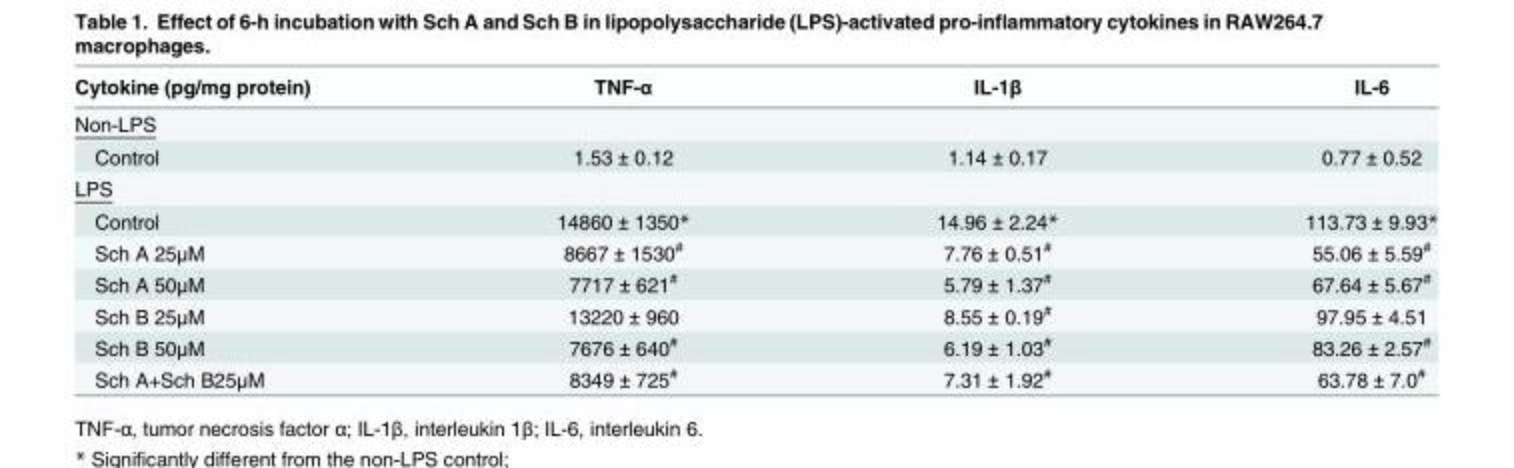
<table><thead><tr><td>Cytokine (pg/mg protein)</td><td>TNF-α</td><td>IL-1β</td><td>IL-6</td></tr></thead><tbody><tr><td colspan="4">Non-LPS</td></tr><tr><td>Control</td><td>1.53 ± 0.12</td><td>1.14 ± 0.17</td><td>0.77 ± 0.52</td></tr><tr><td colspan="4">LPS</td></tr><tr><td>Control</td><td>14860 ± 1350*</td><td>14.96 ± 2.24*</td><td>113.73 ± 9.93*</td></tr><tr><td>Sch A 25μM</td><td>8667 ± 1530<sup>#</sup></td><td>7.76 ± 0.51<sup>#</sup></td><td>55.06 ± 5.59<sup>#</sup></td></tr><tr><td>Sch A 50μM</td><td>7717 ± 621<sup>#</sup></td><td>5.79 ± 1.37<sup>#</sup></td><td>67.64 ± 5.67<sup>#</sup></td></tr><tr><td>Sch B 25μM</td><td>13220 ± 960</td><td>8.55 ± 0.19<sup>#</sup></td><td>97.95 ± 4.51</td></tr><tr><td>Sch B 50μM</td><td>7676 ± 640<sup>#</sup></td><td>6.19 ± 1.03<sup>#</sup></td><td>83.26 ± 2.57<sup>#</sup></td></tr><tr><td>Sch A+Sch B25μM</td><td>8349 ± 725<sup>#</sup></td><td>7.31 ± 1.92<sup>#</sup></td><td>63.78 ± 7.0<sup>#</sup></td></tr></tbody></table>